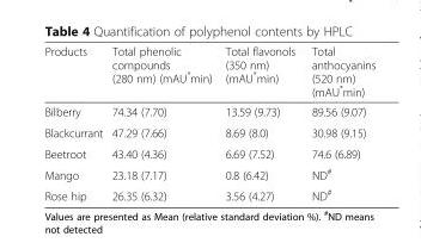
<table><thead><tr><td>Products</td><td>Total phenolic compounds (280 nm) (mAU*min)</td><td>Total flavonols (350 nm) (mAU*min)</td><td>Total anthocyanins (520 nm) (mAU*min)</td></tr></thead><tbody><tr><td>Bilberry</td><td>74.34 (7.70)</td><td>13.59 (9.73)</td><td>89.56 (9.07)</td></tr><tr><td>Blackcurrant</td><td>47.29 (7.66)</td><td>8.69 (8.0)</td><td>30.98 (9.15)</td></tr><tr><td>Beetroot</td><td>43.40 (4.36)</td><td>6.69 (7.52)</td><td>74.6 (6.89)</td></tr><tr><td>Mango</td><td>23.18 (7.17)</td><td>0.8 (6.42)</td><td>ND<sup>#</sup></td></tr><tr><td>Rose hip</td><td>26.35 (6.32)</td><td>3.56 (4.27)</td><td>ND<sup>#</sup></td></tr></tbody></table>